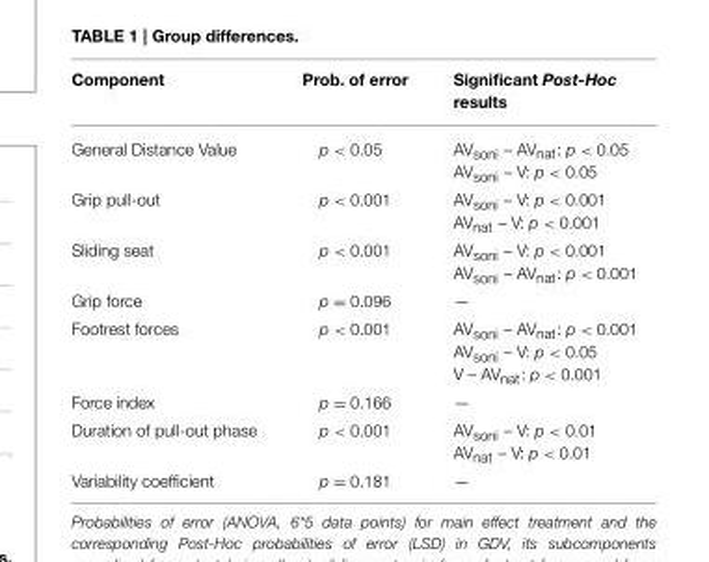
<table><thead><tr><td>Component</td><td>Prob. of error</td><td>Significant Post-Hoc results</td></tr></thead><tbody><tr><td>General Distance Value</td><td>p &lt; 0.05</td><td>AV<sub>soni</sub> – AV<sub>nat</sub>: p &lt; 0.05 AV<sub>soni</sub> – V: p &lt; 0.05</td></tr><tr><td>Grip pull-out</td><td>p &lt; 0.001</td><td>AV<sub>soni</sub> – V: p &lt; 0.001 AV<sub>nat</sub> – V: p &lt; 0.001</td></tr><tr><td>Sliding seat</td><td>p &lt; 0.001</td><td>AV<sub>soni</sub> – V: p &lt; 0.001 AV<sub>soni</sub> – AV<sub>nat</sub>: p &lt; 0.001</td></tr><tr><td>Grip force</td><td>p = 0.096</td><td>—</td></tr><tr><td>Footrest forces</td><td>p &lt; 0.001</td><td>AV<sub>soni</sub> – AV<sub>nat</sub>: p &lt; 0.001 AV<sub>soni</sub> – V: p &lt; 0.05 V – AV<sub>nat</sub>: p &lt; 0.001</td></tr><tr><td>Force index</td><td>p = 0.166</td><td>—</td></tr><tr><td>Duration of pull-out phase</td><td>p &lt; 0.001</td><td>AV<sub>soni</sub> – V: p &lt; 0.01 AV<sub>nat</sub> – V: p &lt; 0.01</td></tr><tr><td>Variability coefficient</td><td>p = 0.181</td><td>—</td></tr></tbody></table>